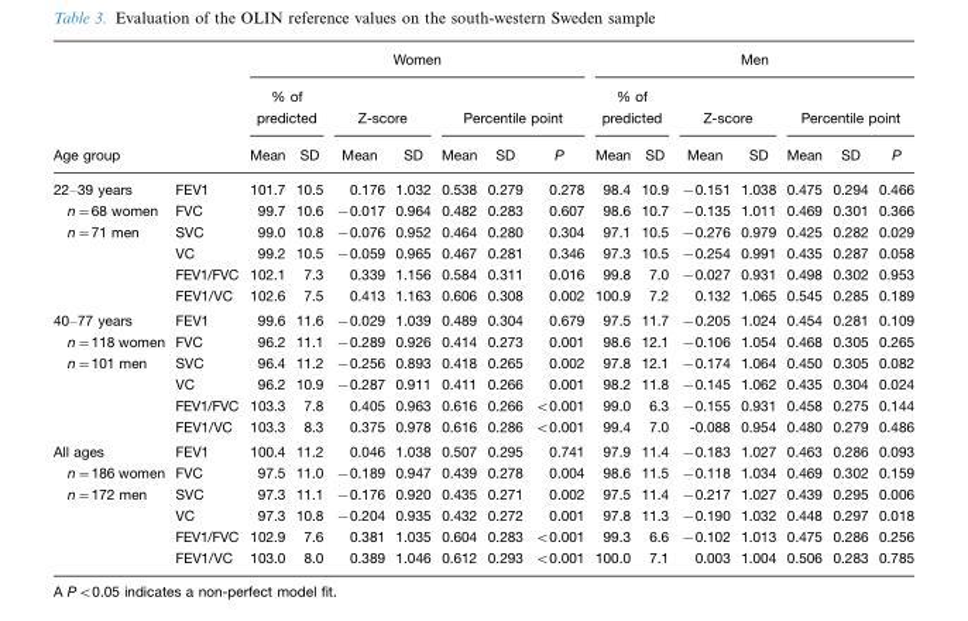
<table><thead><tr><td rowspan="3">Age group</td><td rowspan="3"></td><td colspan="7">Women</td><td colspan="7">Men</td></tr><tr><td colspan="2">% of predicted</td><td colspan="2">Z-score</td><td colspan="3">Percentile point</td><td colspan="2">% of predicted</td><td colspan="2">Z-score</td><td colspan="3">Percentile point</td></tr><tr><td>Mean</td><td>SD</td><td>Mean</td><td>SD</td><td>Mean</td><td>SD</td><td>P</td><td>Mean</td><td>SD</td><td>Mean</td><td>SD</td><td>Mean</td><td>SD</td><td>P</td></tr></thead><tbody><tr><td>22–39 years</td><td>FEV1</td><td>101.7</td><td>10.5</td><td>0.176</td><td>1.032</td><td>0.538</td><td>0.279</td><td>0.278</td><td>98.4</td><td>10.9</td><td>−0.151</td><td>1.038</td><td>0.475</td><td>0.294</td><td>0.466</td></tr><tr><td>n=68 women</td><td>FVC</td><td>99.7</td><td>10.6</td><td>−0.017</td><td>0.964</td><td>0.482</td><td>0.283</td><td>0.607</td><td>98.6</td><td>10.7</td><td>−0.135</td><td>1.011</td><td>0.469</td><td>0.301</td><td>0.366</td></tr><tr><td rowspan="4">n=71 men</td><td>SVC</td><td>99.0</td><td>10.8</td><td>−0.076</td><td>0.952</td><td>0.464</td><td>0.280</td><td>0.304</td><td>97.1</td><td>10.5</td><td>−0.276</td><td>0.979</td><td>0.425</td><td>0.282</td><td>0.029</td></tr><tr><td>VC</td><td>99.2</td><td>10.5</td><td>−0.059</td><td>0.965</td><td>0.467</td><td>0.281</td><td>0.346</td><td>97.3</td><td>10.5</td><td>−0.254</td><td>0.991</td><td>0.435</td><td>0.287</td><td>0.058</td></tr><tr><td>FEV1/FVC</td><td>102.1</td><td>7.3</td><td>0.339</td><td>1.156</td><td>0.584</td><td>0.311</td><td>0.016</td><td>99.8</td><td>7.0</td><td>−0.027</td><td>0.931</td><td>0.498</td><td>0.302</td><td>0.953</td></tr><tr><td>FEV1/VC</td><td>102.6</td><td>7.5</td><td>0.413</td><td>1.163</td><td>0.606</td><td>0.308</td><td>0.002</td><td>100.9</td><td>7.2</td><td>0.132</td><td>1.065</td><td>0.545</td><td>0.285</td><td>0.189</td></tr><tr><td>40–77 years</td><td>FEV1</td><td>99.6</td><td>11.6</td><td>−0.029</td><td>1.039</td><td>0.489</td><td>0.304</td><td>0.679</td><td>97.5</td><td>11.7</td><td>−0.205</td><td>1.024</td><td>0.454</td><td>0.281</td><td>0.109</td></tr><tr><td>n=118 women</td><td>FVC</td><td>96.2</td><td>11.1</td><td>−0.289</td><td>0.926</td><td>0.414</td><td>0.273</td><td>0.001</td><td>98.6</td><td>12.1</td><td>−0.106</td><td>1.054</td><td>0.468</td><td>0.305</td><td>0.265</td></tr><tr><td rowspan="4">n=101 men</td><td>SVC</td><td>96.4</td><td>11.2</td><td>−0.256</td><td>0.893</td><td>0.418</td><td>0.265</td><td>0.002</td><td>97.8</td><td>12.1</td><td>−0.174</td><td>1.064</td><td>0.450</td><td>0.305</td><td>0.082</td></tr><tr><td>VC</td><td>96.2</td><td>10.9</td><td>−0.287</td><td>0.911</td><td>0.411</td><td>0.266</td><td>0.001</td><td>98.2</td><td>11.8</td><td>−0.145</td><td>1.062</td><td>0.435</td><td>0.304</td><td>0.024</td></tr><tr><td>FEV1/FVC</td><td>103.3</td><td>7.8</td><td>0.405</td><td>0.963</td><td>0.616</td><td>0.266</td><td>&lt;0.001</td><td>99.0</td><td>6.3</td><td>−0.155</td><td>0.931</td><td>0.458</td><td>0.275</td><td>0.144</td></tr><tr><td>FEV1/VC</td><td>103.3</td><td>8.3</td><td>0.375</td><td>0.978</td><td>0.616</td><td>0.286</td><td>&lt;0.001</td><td>99.4</td><td>7.0</td><td>-0.088</td><td>0.954</td><td>0.480</td><td>0.279</td><td>0.486</td></tr><tr><td>All ages</td><td>FEV1</td><td>100.4</td><td>11.2</td><td>0.046</td><td>1.038</td><td>0.507</td><td>0.295</td><td>0.741</td><td>97.9</td><td>11.4</td><td>−0.183</td><td>1.027</td><td>0.463</td><td>0.286</td><td>0.093</td></tr><tr><td>n=186 women</td><td>FVC</td><td>97.5</td><td>11.0</td><td>−0.189</td><td>0.947</td><td>0.439</td><td>0.278</td><td>0.004</td><td>98.6</td><td>11.5</td><td>−0.118</td><td>1.034</td><td>0.469</td><td>0.302</td><td>0.159</td></tr><tr><td rowspan="4">n=172 men</td><td>SVC</td><td>97.3</td><td>11.1</td><td>−0.176</td><td>0.920</td><td>0.435</td><td>0.271</td><td>0.002</td><td>97.5</td><td>11.4</td><td>−0.217</td><td>1.027</td><td>0.439</td><td>0.295</td><td>0.006</td></tr><tr><td>VC</td><td>97.3</td><td>10.8</td><td>−0.204</td><td>0.935</td><td>0.432</td><td>0.272</td><td>0.001</td><td>97.8</td><td>11.3</td><td>−0.190</td><td>1.032</td><td>0.448</td><td>0.297</td><td>0.018</td></tr><tr><td>FEV1/FVC</td><td>102.9</td><td>7.6</td><td>0.381</td><td>1.035</td><td>0.604</td><td>0.283</td><td>&lt;0.001</td><td>99.3</td><td>6.6</td><td>−0.102</td><td>1.013</td><td>0.475</td><td>0.286</td><td>0.256</td></tr><tr><td>FEV1/VC</td><td>103.0</td><td>8.0</td><td>0.389</td><td>1.046</td><td>0.612</td><td>0.293</td><td>&lt;0.001</td><td>100.0</td><td>7.1</td><td>0.003</td><td>1.004</td><td>0.506</td><td>0.283</td><td>0.785</td></tr></tbody></table>